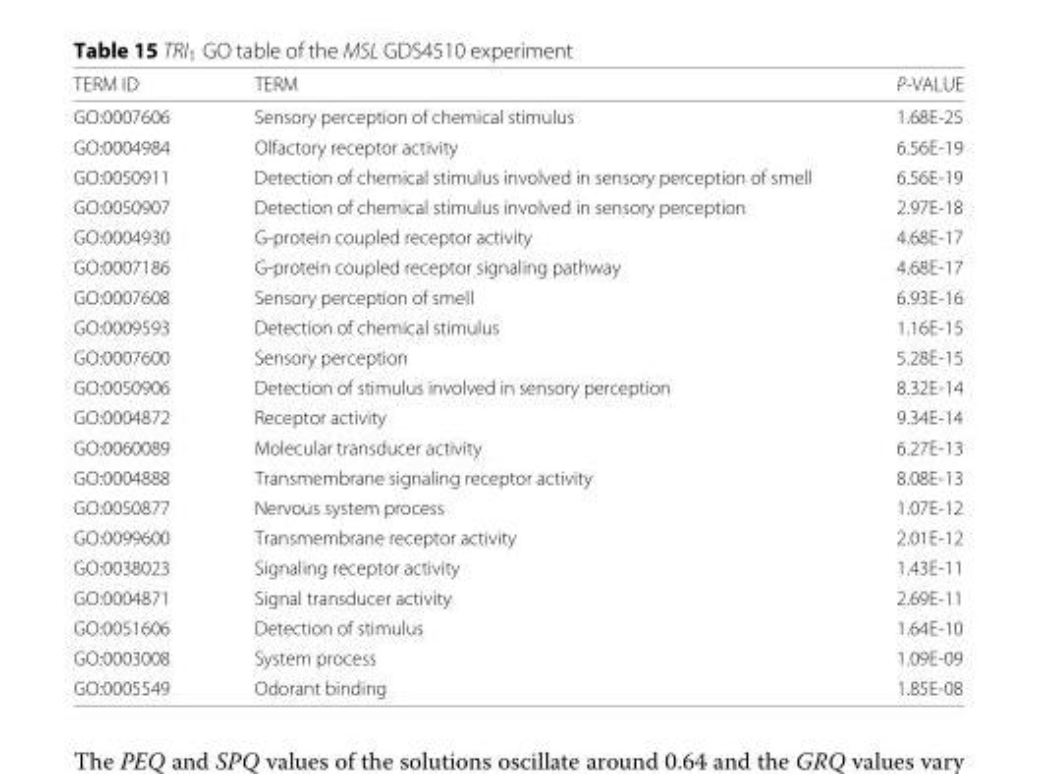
<table><thead><tr><td>TERM ID</td><td>TERM</td><td>P-VALUE</td></tr></thead><tbody><tr><td>GO:0007606</td><td>Sensory perception of chemical stimulus</td><td>1.68E-25</td></tr><tr><td>GO:0004984</td><td>Olfactory receptor activity</td><td>6.56E-19</td></tr><tr><td>GO:0050911</td><td>Detection of chemical stimulus involved in sensory perception of smell</td><td>6.56E-19</td></tr><tr><td>GO:0050907</td><td>Detection of chemical stimulus involved in sensory perception</td><td>2.97E-18</td></tr><tr><td>GO:0004930</td><td>G-protein coupled receptor activity</td><td>4.68E-17</td></tr><tr><td>GO:0007186</td><td>G-protein coupled receptor signaling pathway</td><td>4.68E-17</td></tr><tr><td>GO:0007608</td><td>Sensory perception of smell</td><td>6.93E-16</td></tr><tr><td>GO:0009593</td><td>Detection of chemical stimulus</td><td>1.16E-15</td></tr><tr><td>GO:0007600</td><td>Sensory perception</td><td>5.28E-15</td></tr><tr><td>GO:0050906</td><td>Detection of stimulus involved in sensory perception</td><td>8.32E-14</td></tr><tr><td>GO:0004872</td><td>Receptor activity</td><td>9.34E-14</td></tr><tr><td>GO:0060089</td><td>Molecular transducer activity</td><td>6.27E-13</td></tr><tr><td>GO:0004888</td><td>Transmembrane signaling receptor activity</td><td>8.08E-13</td></tr><tr><td>GO:0050877</td><td>Nervous system process</td><td>1.07E-12</td></tr><tr><td>GO:0099600</td><td>Transmembrane receptor activity</td><td>2.01E-12</td></tr><tr><td>GO:0038023</td><td>Signaling receptor activity</td><td>1.43E-11</td></tr><tr><td>GO:0004871</td><td>Signal transducer activity</td><td>2.69E-11</td></tr><tr><td>GO:0051606</td><td>Detection of stimulus</td><td>1.64E-10</td></tr><tr><td>GO:0003008</td><td>System process</td><td>1.09E-09</td></tr><tr><td>GO:0005549</td><td>Odorant binding</td><td>1.85E-08</td></tr></tbody></table>